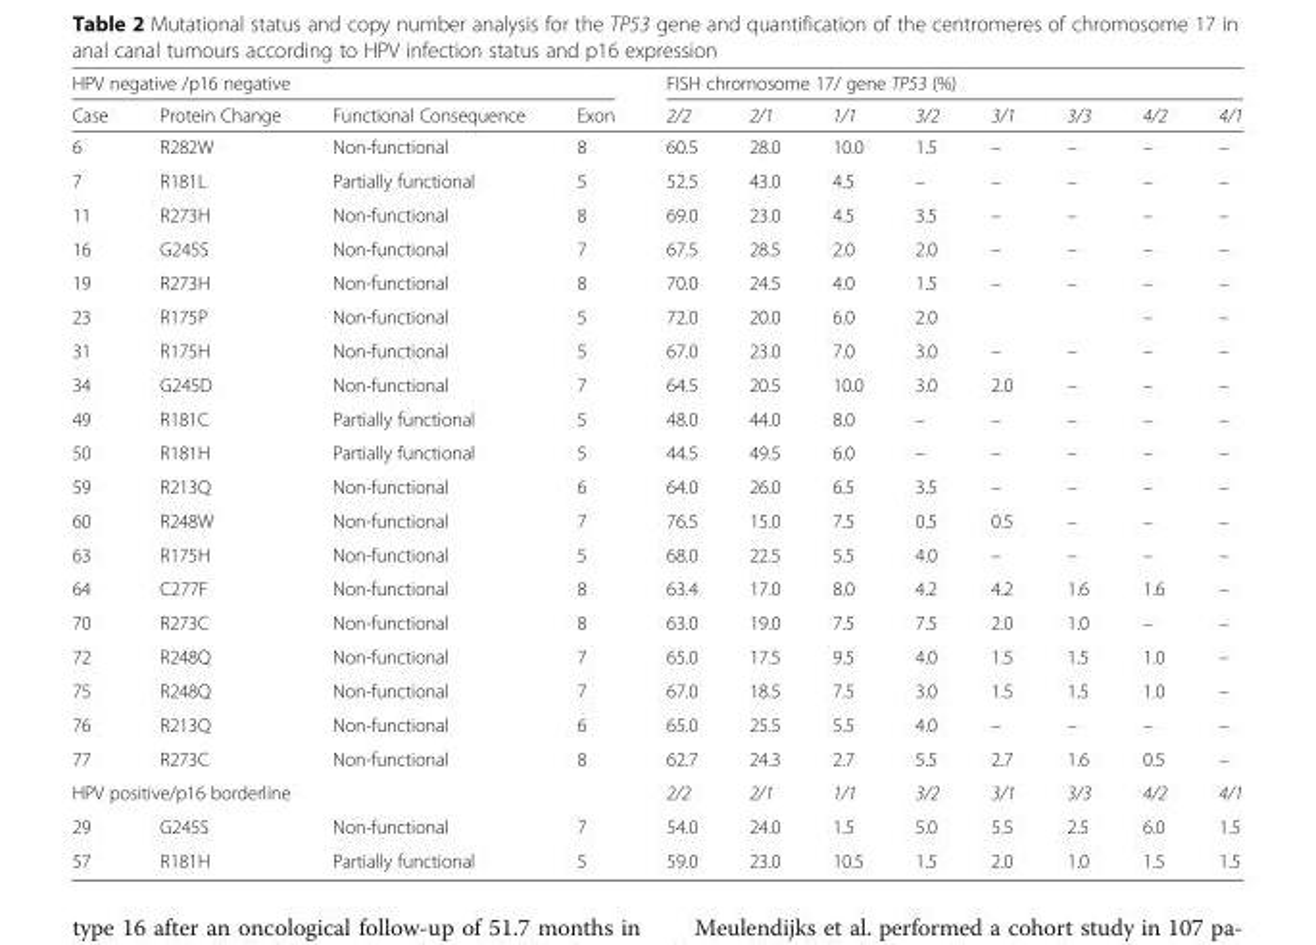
<table><thead><tr><td colspan="4">HPV negative /p16 negative</td><td colspan="8">FISH chromosome 17/ gene TP53 (%)</td></tr><tr><td>Case</td><td>Protein Change</td><td>Functional Consequence</td><td>Exon</td><td>2/2</td><td>2/1</td><td>1/1</td><td>3/2</td><td>3/1</td><td>3/3</td><td>4/2</td><td>4/1</td></tr></thead><tbody><tr><td>6</td><td>R282W</td><td>Non-functional</td><td>8</td><td>60.5</td><td>28.0</td><td>10.0</td><td>1.5</td><td>–</td><td>–</td><td>–</td><td>–</td></tr><tr><td>7</td><td>R181L</td><td>Partially functional</td><td>5</td><td>52.5</td><td>43.0</td><td>4.5</td><td>–</td><td>–</td><td>–</td><td>–</td><td>–</td></tr><tr><td>11</td><td>R273H</td><td>Non-functional</td><td>8</td><td>69.0</td><td>23.0</td><td>4.5</td><td>3.5</td><td>–</td><td>–</td><td>–</td><td>–</td></tr><tr><td>16</td><td>G245S</td><td>Non-functional</td><td>7</td><td>67.5</td><td>28.5</td><td>2.0</td><td>2.0</td><td>–</td><td>–</td><td>–</td><td>–</td></tr><tr><td>19</td><td>R273H</td><td>Non-functional</td><td>8</td><td>70.0</td><td>24.5</td><td>4.0</td><td>1.5</td><td>–</td><td>–</td><td>–</td><td>–</td></tr><tr><td>23</td><td>R175P</td><td>Non-functional</td><td>5</td><td>72.0</td><td>20.0</td><td>6.0</td><td>2.0</td><td></td><td></td><td>–</td><td>–</td></tr><tr><td>31</td><td>R175H</td><td>Non-functional</td><td>5</td><td>67.0</td><td>23.0</td><td>7.0</td><td>3.0</td><td>–</td><td>–</td><td>–</td><td>–</td></tr><tr><td>34</td><td>G245D</td><td>Non-functional</td><td>7</td><td>64.5</td><td>20.5</td><td>10.0</td><td>3.0</td><td>2.0</td><td>–</td><td>–</td><td>–</td></tr><tr><td>49</td><td>R181C</td><td>Partially functional</td><td>5</td><td>48.0</td><td>44.0</td><td>8.0</td><td>–</td><td>–</td><td>–</td><td>–</td><td>–</td></tr><tr><td>50</td><td>R181H</td><td>Partially functional</td><td>5</td><td>44.5</td><td>49.5</td><td>6.0</td><td>–</td><td>–</td><td>–</td><td>–</td><td>–</td></tr><tr><td>59</td><td>R213Q</td><td>Non-functional</td><td>6</td><td>64.0</td><td>26.0</td><td>6.5</td><td>3.5</td><td>–</td><td>–</td><td>–</td><td>–</td></tr><tr><td>60</td><td>R248W</td><td>Non-functional</td><td>7</td><td>76.5</td><td>15.0</td><td>7.5</td><td>0.5</td><td>0.5</td><td>–</td><td>–</td><td>–</td></tr><tr><td>63</td><td>R175H</td><td>Non-functional</td><td>5</td><td>68.0</td><td>22.5</td><td>5.5</td><td>4.0</td><td>–</td><td>–</td><td>–</td><td>–</td></tr><tr><td>64</td><td>C277F</td><td>Non-functional</td><td>8</td><td>63.4</td><td>17.0</td><td>8.0</td><td>4.2</td><td>4.2</td><td>1.6</td><td>1.6</td><td>–</td></tr><tr><td>70</td><td>R273C</td><td>Non-functional</td><td>8</td><td>63.0</td><td>19.0</td><td>7.5</td><td>7.5</td><td>2.0</td><td>1.0</td><td>–</td><td>–</td></tr><tr><td>72</td><td>R248Q</td><td>Non-functional</td><td>7</td><td>65.0</td><td>17.5</td><td>9.5</td><td>4.0</td><td>1.5</td><td>1.5</td><td>1.0</td><td>–</td></tr><tr><td>75</td><td>R248Q</td><td>Non-functional</td><td>7</td><td>67.0</td><td>18.5</td><td>7.5</td><td>3.0</td><td>1.5</td><td>1.5</td><td>1.0</td><td>–</td></tr><tr><td>76</td><td>R213Q</td><td>Non-functional</td><td>6</td><td>65.0</td><td>25.5</td><td>5.5</td><td>4.0</td><td>–</td><td>–</td><td>–</td><td>–</td></tr><tr><td>77</td><td>R273C</td><td>Non-functional</td><td>8</td><td>62.7</td><td>24.3</td><td>2.7</td><td>5.5</td><td>2.7</td><td>1.6</td><td>0.5</td><td>–</td></tr><tr><td colspan="3">HPV positive/p16 borderline</td><td></td><td>2/2</td><td>2/1</td><td>1/1</td><td>3/2</td><td>3/1</td><td>3/3</td><td>4/2</td><td>4/1</td></tr><tr><td>29</td><td>G245S</td><td>Non-functional</td><td>7</td><td>54.0</td><td>24.0</td><td>1.5</td><td>5.0</td><td>5.5</td><td>2.5</td><td>6.0</td><td>1.5</td></tr><tr><td>57</td><td>R181H</td><td>Partially functional</td><td>5</td><td>59.0</td><td>23.0</td><td>10.5</td><td>1.5</td><td>2.0</td><td>1.0</td><td>1.5</td><td>1.5</td></tr></tbody></table>